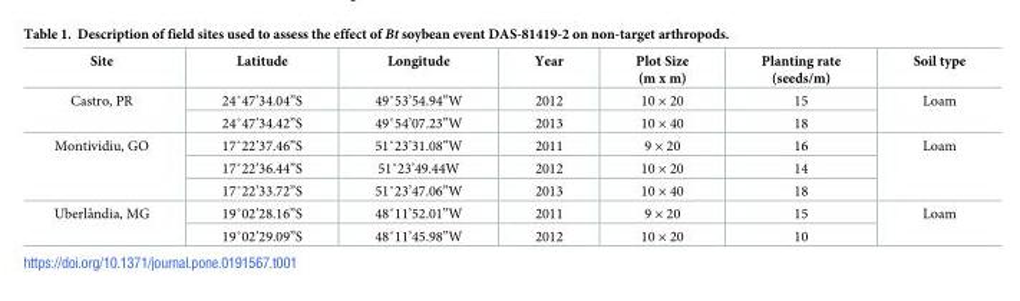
<table><thead><tr><td>Site</td><td>Latitude</td><td>Longitude</td><td>Year</td><td>Plot Size (m x m)</td><td>Planting rate (seeds/m)</td><td>Soil type</td></tr></thead><tbody><tr><td rowspan="2">Castro, PR</td><td>24˚47’34.04”S</td><td>49˚53’54.94”W</td><td>2012</td><td>10 × 20</td><td>15</td><td rowspan="2">Loam</td></tr><tr><td>24˚47’34.42”S</td><td>49˚54’07.23”W</td><td>2013</td><td>10 × 40</td><td>18</td></tr><tr><td rowspan="3">Montividiu, GO</td><td>17˚22’37.46”S</td><td>51˚23’31.08”W</td><td>2011</td><td>9 × 20</td><td>16</td><td rowspan="3">Loam</td></tr><tr><td>17˚22’36.44”S</td><td>51˚23’49.44W</td><td>2012</td><td>10 × 20</td><td>14</td></tr><tr><td>17˚22’33.72”S</td><td>51˚23’47.06”W</td><td>2013</td><td>10 × 40</td><td>18</td></tr><tr><td rowspan="2">Uberlaˆndia, MG</td><td>19˚02’28.16”S</td><td>48˚11’52.01”W</td><td>2011</td><td>9 × 20</td><td>15</td><td rowspan="2">Loam</td></tr><tr><td>19˚02’29.09”S</td><td>48˚11’45.98”W</td><td>2012</td><td>10 × 20</td><td>10</td></tr></tbody></table>